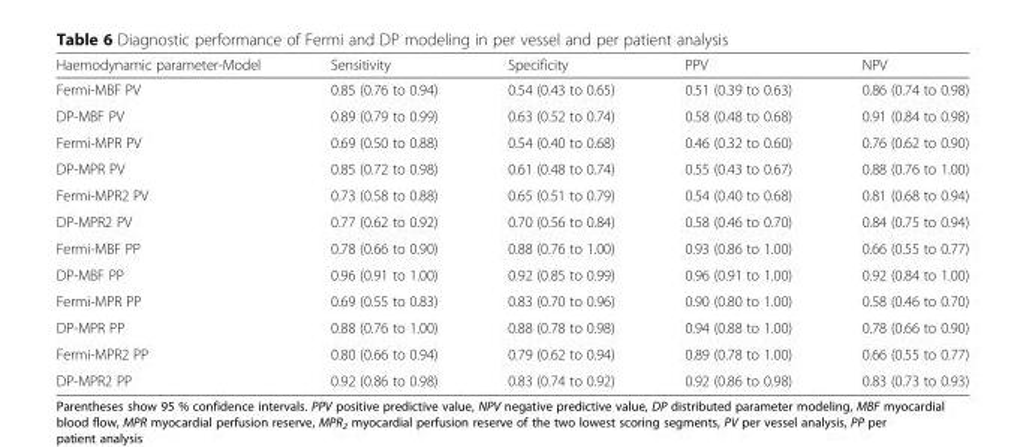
<table><thead><tr><td>Haemodynamic parameter-Model</td><td>Sensitivity</td><td>Specificity</td><td>PPV</td><td>NPV</td></tr></thead><tbody><tr><td>Fermi-MBF PV</td><td>0.85 (0.76 to 0.94)</td><td>0.54 (0.43 to 0.65)</td><td>0.51 (0.39 to 0.63)</td><td>0.86 (0.74 to 0.98)</td></tr><tr><td>DP-MBF PV</td><td>0.89 (0.79 to 0.99)</td><td>0.63 (0.52 to 0.74)</td><td>0.58 (0.48 to 0.68)</td><td>0.91 (0.84 to 0.98)</td></tr><tr><td>Fermi-MPR PV</td><td>0.69 (0.50 to 0.88)</td><td>0.54 (0.40 to 0.68)</td><td>0.46 (0.32 to 0.60)</td><td>0.76 (0.62 to 0.90)</td></tr><tr><td>DP-MPR PV</td><td>0.85 (0.72 to 0.98)</td><td>0.61 (0.48 to 0.74)</td><td>0.55 (0.43 to 0.67)</td><td>0.88 (0.76 to 1.00)</td></tr><tr><td>Fermi-MPR2 PV</td><td>0.73 (0.58 to 0.88)</td><td>0.65 (0.51 to 0.79)</td><td>0.54 (0.40 to 0.68)</td><td>0.81 (0.68 to 0.94)</td></tr><tr><td>DP-MPR2 PV</td><td>0.77 (0.62 to 0.92)</td><td>0.70 (0.56 to 0.84)</td><td>0.58 (0.46 to 0.70)</td><td>0.84 (0.75 to 0.94)</td></tr><tr><td>Fermi-MBF PP</td><td>0.78 (0.66 to 0.90)</td><td>0.88 (0.76 to 1.00)</td><td>0.93 (0.86 to 1.00)</td><td>0.66 (0.55 to 0.77)</td></tr><tr><td>DP-MBF PP</td><td>0.96 (0.91 to 1.00)</td><td>0.92 (0.85 to 0.99)</td><td>0.96 (0.91 to 1.00)</td><td>0.92 (0.84 to 1.00)</td></tr><tr><td>Fermi-MPR PP</td><td>0.69 (0.55 to 0.83)</td><td>0.83 (0.70 to 0.96)</td><td>0.90 (0.80 to 1.00)</td><td>0.58 (0.46 to 0.70)</td></tr><tr><td>DP-MPR PP</td><td>0.88 (0.76 to 1.00)</td><td>0.88 (0.78 to 0.98)</td><td>0.94 (0.88 to 1.00)</td><td>0.78 (0.66 to 0.90)</td></tr><tr><td>Fermi-MPR2 PP</td><td>0.80 (0.66 to 0.94)</td><td>0.79 (0.62 to 0.94)</td><td>0.89 (0.78 to 1.00)</td><td>0.66 (0.55 to 0.77)</td></tr><tr><td>DP-MPR2 PP</td><td>0.92 (0.86 to 0.98)</td><td>0.83 (0.74 to 0.92)</td><td>0.92 (0.86 to 0.98)</td><td>0.83 (0.73 to 0.93)</td></tr></tbody></table>